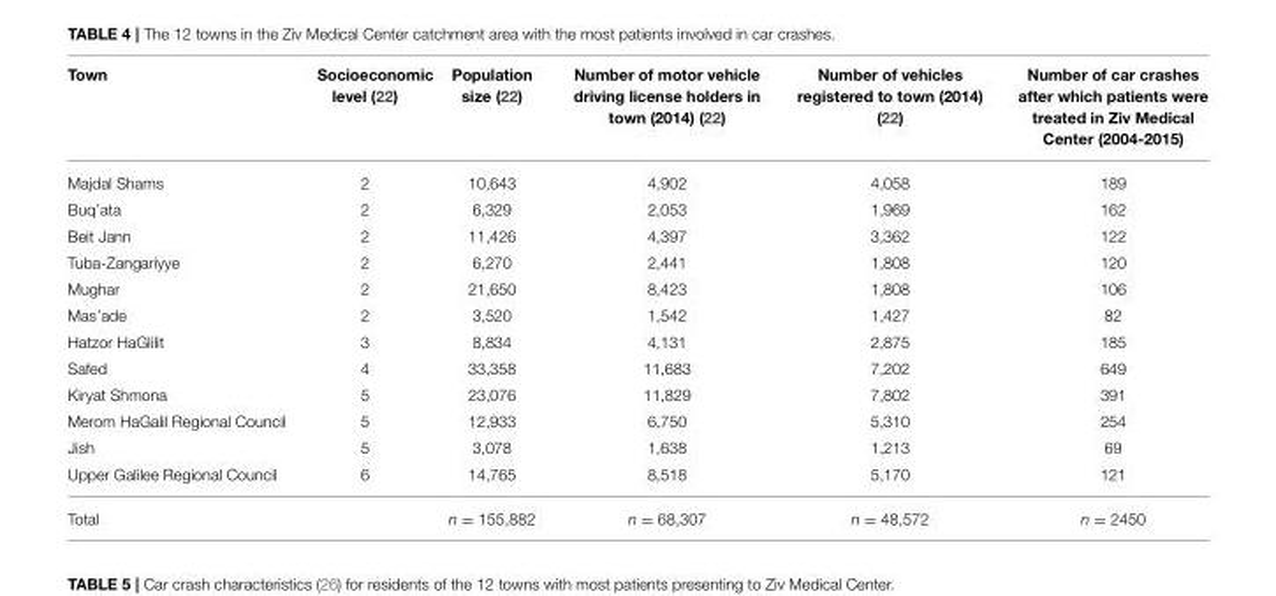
<table><thead><tr><td>Town</td><td>Socioeconomic level (22)</td><td>Population size (22)</td><td>Number of motor vehicle driving license holders in town (2014) (22)</td><td>Number of vehicles registered to town (2014) (22)</td><td>Number of car crashes after which patients were treated in Ziv Medical Center (2004-2015)</td></tr></thead><tbody><tr><td>Majdal Shams</td><td>2</td><td>10,643</td><td>4,902</td><td>4,058</td><td>189</td></tr><tr><td>Buq’ata</td><td>2</td><td>6,329</td><td>2,053</td><td>1,969</td><td>162</td></tr><tr><td>Beit Jann</td><td>2</td><td>11,426</td><td>4,397</td><td>3,362</td><td>122</td></tr><tr><td>Tuba-Zangariyye</td><td>2</td><td>6,270</td><td>2,441</td><td>1,808</td><td>120</td></tr><tr><td>Mughar</td><td>2</td><td>21,650</td><td>8,423</td><td>1,808</td><td>106</td></tr><tr><td>Mas’ade</td><td>2</td><td>3,520</td><td>1,542</td><td>1,427</td><td>82</td></tr><tr><td>Hatzor HaGlilit</td><td>3</td><td>8,834</td><td>4,131</td><td>2,875</td><td>185</td></tr><tr><td>Safed</td><td>4</td><td>33,358</td><td>11,683</td><td>7,202</td><td>649</td></tr><tr><td>Kiryat Shmona</td><td>5</td><td>23,076</td><td>11,829</td><td>7,802</td><td>391</td></tr><tr><td>Merom HaGalil Regional Council</td><td>5</td><td>12,933</td><td>6,750</td><td>5,310</td><td>254</td></tr><tr><td>Jish</td><td>5</td><td>3,078</td><td>1,638</td><td>1,213</td><td>69</td></tr><tr><td>Upper Galilee Regional Council</td><td>6</td><td>14,765</td><td>8,518</td><td>5,170</td><td>121</td></tr><tr><td>Total</td><td></td><td>n = 155,882</td><td>n = 68,307</td><td>n = 48,572</td><td>n = 2450</td></tr></tbody></table>